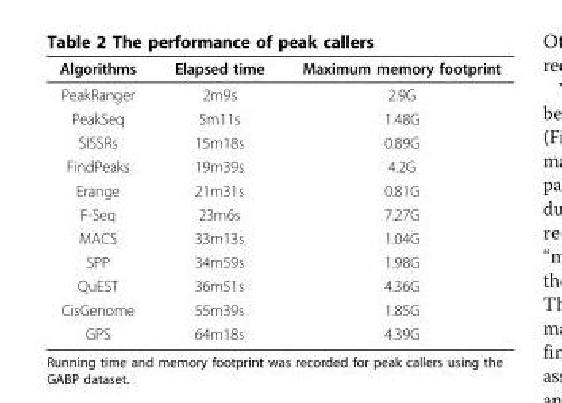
<table><thead><tr><td>Algorithms</td><td>Elapsed time</td><td>Maximum memory footprint</td></tr></thead><tbody><tr><td>PeakRanger</td><td>2m9s</td><td>2.9G</td></tr><tr><td>PeakSeq</td><td>5m11s</td><td>1.48G</td></tr><tr><td>SISSRs</td><td>15m18s</td><td>0.89G</td></tr><tr><td>FindPeaks</td><td>19m39s</td><td>4.2G</td></tr><tr><td>Erange</td><td>21m31s</td><td>0.81G</td></tr><tr><td>F-Seq</td><td>23m6s</td><td>7.27G</td></tr><tr><td>MACS</td><td>33m13s</td><td>1.04G</td></tr><tr><td>SPP</td><td>34m59s</td><td>1.98G</td></tr><tr><td>QuEST</td><td>36m51s</td><td>4.36G</td></tr><tr><td>CisGenome</td><td>55m39s</td><td>1.85G</td></tr><tr><td>GPS</td><td>64m18s</td><td>4.39G</td></tr></tbody></table>